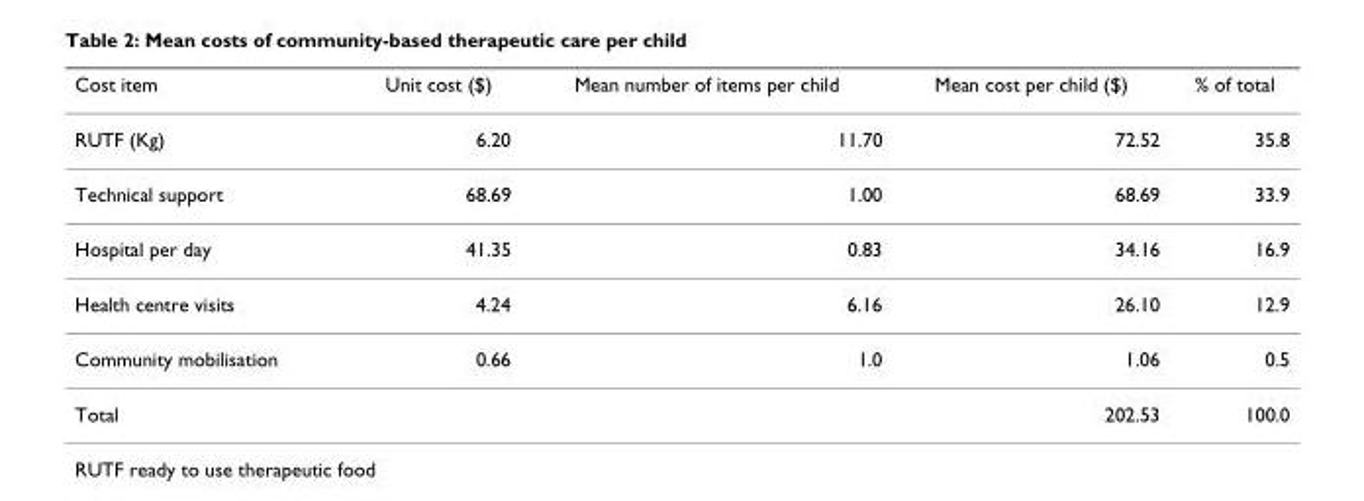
<table><thead><tr><td>Cost item</td><td>Unit cost ($)</td><td>Mean number of items per child</td><td>Mean cost per child ($)</td><td>% of total</td></tr></thead><tbody><tr><td>RUTF (Kg)</td><td>6.20</td><td>11.70</td><td>72.52</td><td>35.8</td></tr><tr><td>Technical support</td><td>68.69</td><td>1.00</td><td>68.69</td><td>33.9</td></tr><tr><td>Hospital per day</td><td>41.35</td><td>0.83</td><td>34.16</td><td>16.9</td></tr><tr><td>Health centre visits</td><td>4.24</td><td>6.16</td><td>26.10</td><td>12.9</td></tr><tr><td>Community mobilisation</td><td>0.66</td><td>1.0</td><td>1.06</td><td>0.5</td></tr><tr><td>Total</td><td></td><td></td><td>202.53</td><td>100.0</td></tr></tbody></table>